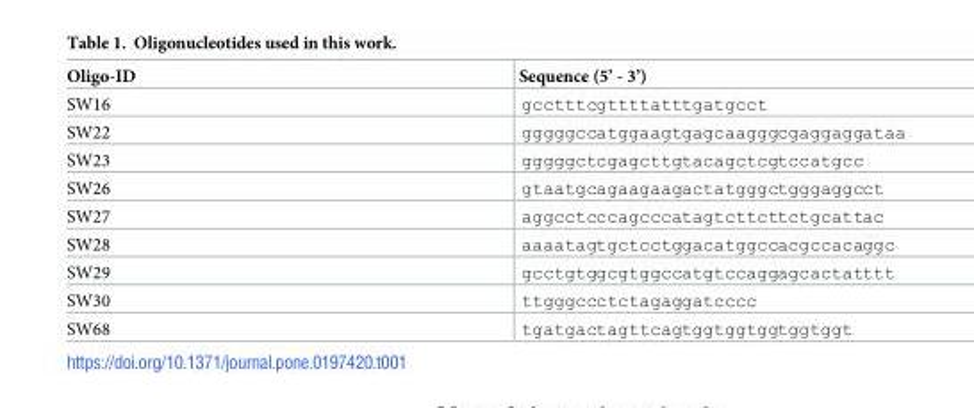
<table><thead><tr><td>Oligo-ID</td><td>Sequence (5’ - 3’)</td></tr></thead><tbody><tr><td>SW16</td><td>gcctttcgttttatttgatgcct</td></tr><tr><td>SW22</td><td>gggggccatggaagtgagcaagggcgaggaggataa</td></tr><tr><td>SW23</td><td>gggggctcgagcttgtacagctcgtccatgcc</td></tr><tr><td>SW26</td><td>gtaatgcagaagaagactatgggctgggaggcct</td></tr><tr><td>SW27</td><td>aggcctcccagcccatagtcttcttctgcattac</td></tr><tr><td>SW28</td><td>aaaatagtgctcctggacatggccacgccacaggc</td></tr><tr><td>SW29</td><td>gcctgtggcgtggccatgtccaggagcactatttt</td></tr><tr><td>SW30</td><td>ttgggccctctagaggatcccc</td></tr><tr><td>SW68</td><td>tgatgactagttcagtggtggtggtggtggt</td></tr></tbody></table>